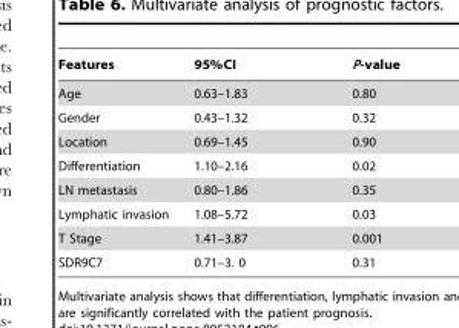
<table><thead><tr><td>Features</td><td>95%CI</td><td>P-value</td></tr></thead><tbody><tr><td>Age</td><td>0.63–1.83</td><td>0.80</td></tr><tr><td>Gender</td><td>0.43–1.32</td><td>0.32</td></tr><tr><td>Location</td><td>0.69–1.45</td><td>0.90</td></tr><tr><td>Differentiation</td><td>1.10–2.16</td><td>0.02</td></tr><tr><td>LN metastasis</td><td>0.80–1.86</td><td>0.35</td></tr><tr><td>Lymphatic invasion</td><td>1.08–5.72</td><td>0.03</td></tr><tr><td>T Stage</td><td>1.41–3.87</td><td>0.001</td></tr><tr><td>SDR9C7</td><td>0.71–3. 0</td><td>0.31</td></tr></tbody></table>